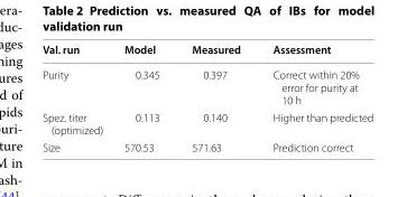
<table><thead><tr><td>Val. run</td><td>Model</td><td>Measured</td><td>Assessment</td></tr></thead><tbody><tr><td>Purity</td><td>0.345</td><td>0.397</td><td>Correct within 20% error for purity at 10 h</td></tr><tr><td>Spez. titer (optimized)</td><td>0.113</td><td>0.140</td><td>Higher than predicted</td></tr><tr><td>Size</td><td>570.53</td><td>571.63</td><td>Prediction correct</td></tr></tbody></table>